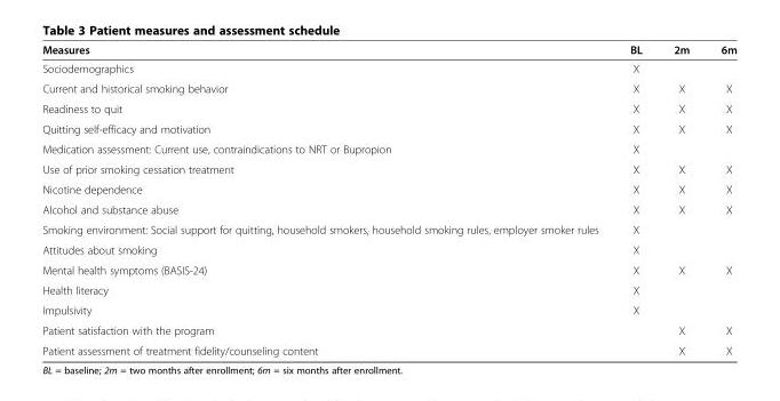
<table><thead><tr><td>Measures</td><td>BL</td><td>2m</td><td>6m</td></tr></thead><tbody><tr><td>Sociodemographics</td><td>X</td><td></td><td></td></tr><tr><td>Current and historical smoking behavior</td><td>X</td><td>X</td><td>X</td></tr><tr><td>Readiness to quit</td><td>X</td><td>X</td><td>X</td></tr><tr><td>Quitting self-efficacy and motivation</td><td>X</td><td>X</td><td>X</td></tr><tr><td>Medication assessment: Current use, contraindications to NRT or Bupropion</td><td>X</td><td></td><td></td></tr><tr><td>Use of prior smoking cessation treatment</td><td>X</td><td>X</td><td>X</td></tr><tr><td>Nicotine dependence</td><td>X</td><td>X</td><td>X</td></tr><tr><td>Alcohol and substance abuse</td><td>X</td><td>X</td><td>X</td></tr><tr><td>Smoking environment: Social support for quitting, household smokers, household smoking rules, employer smoker rules</td><td>X</td><td></td><td></td></tr><tr><td>Attitudes about smoking</td><td>X</td><td></td><td></td></tr><tr><td>Mental health symptoms (BASIS-24)</td><td>X</td><td>X</td><td>X</td></tr><tr><td>Health literacy</td><td>X</td><td></td><td></td></tr><tr><td>Impulsivity</td><td>X</td><td></td><td></td></tr><tr><td>Patient satisfaction with the program</td><td></td><td>X</td><td>X</td></tr><tr><td>Patient assessment of treatment fidelity/counseling content</td><td></td><td>X</td><td>X</td></tr></tbody></table>